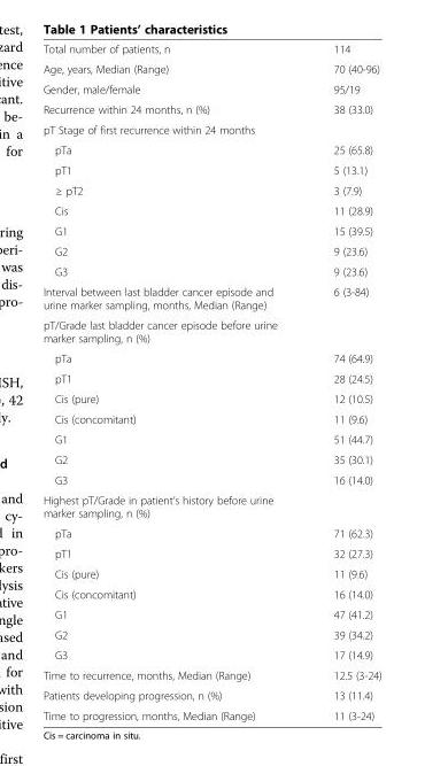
<table><tbody><tr><td>Total number of patients, n</td><td>114</td></tr><tr><td>Age, years, Median (Range)</td><td>70 (40-96)</td></tr><tr><td>Gender, male/female</td><td>95/19</td></tr><tr><td>Recurrence within 24 months, n (%)</td><td>38 (33.0)</td></tr><tr><td colspan="2">pT Stage of first recurrence within 24 months</td></tr><tr><td>pTa</td><td>25 (65.8)</td></tr><tr><td>pT1</td><td>5 (13.1)</td></tr><tr><td>≥ pT2</td><td>3 (7.9)</td></tr><tr><td>Cis</td><td>11 (28.9)</td></tr><tr><td>G1</td><td>15 (39.5)</td></tr><tr><td>G2</td><td>9 (23.6)</td></tr><tr><td>G3</td><td>9 (23.6)</td></tr><tr><td>Interval between last bladder cancer episode and urine marker sampling, months, Median (Range)</td><td>6 (3-84)</td></tr><tr><td colspan="2">pT/Grade last bladder cancer episode before urine marker sampling, n (%)</td></tr><tr><td>pTa</td><td>74 (64.9)</td></tr><tr><td>pT1</td><td>28 (24.5)</td></tr><tr><td>Cis (pure)</td><td>12 (10.5)</td></tr><tr><td>Cis (concomitant)</td><td>11 (9.6)</td></tr><tr><td>G1</td><td>51 (44.7)</td></tr><tr><td>G2</td><td>35 (30.1)</td></tr><tr><td>G3</td><td>16 (14.0)</td></tr><tr><td colspan="2">Highest pT/Grade in patient’s history before urine marker sampling, n (%)</td></tr><tr><td>pTa</td><td>71 (62.3)</td></tr><tr><td>pT1</td><td>32 (27.3)</td></tr><tr><td>Cis (pure)</td><td>11 (9.6)</td></tr><tr><td>Cis (concomitant)</td><td>16 (14.0)</td></tr><tr><td>G1</td><td>47 (41.2)</td></tr><tr><td>G2</td><td>39 (34.2)</td></tr><tr><td>G3</td><td>17 (14.9)</td></tr><tr><td>Time to recurrence, months, Median (Range)</td><td>12.5 (3-24)</td></tr><tr><td>Patients developing progression, n (%)</td><td>13 (11.4)</td></tr><tr><td>Time to progression, months, Median (Range)</td><td>11 (3-24)</td></tr></tbody></table>